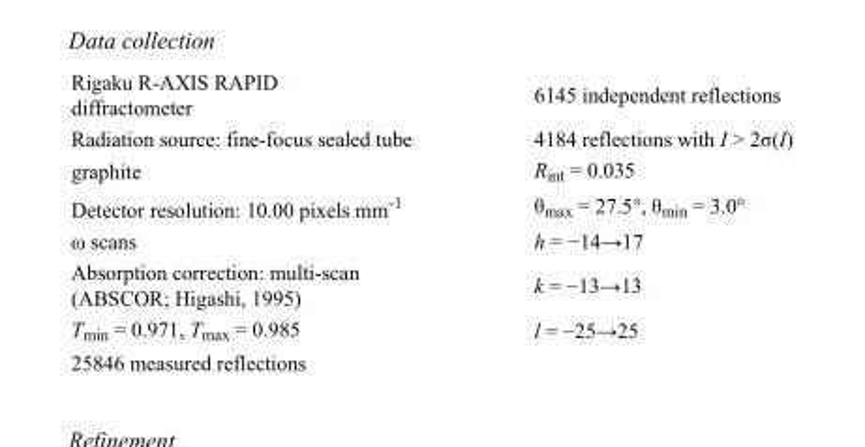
<table><tbody><tr><td>Rigaku R-AXIS RAPID diffractometer</td><td>6145 independent reflections</td></tr><tr><td>Radiation source: fine-focus sealed tube</td><td>4184 reflections with I &gt; 2σ(I)</td></tr><tr><td>graphite</td><td>R<sub>int</sub> = 0.035</td></tr><tr><td>Detector resolution: 10.00 pixels mm<sup>-1</sup></td><td>θ<sub>max</sub> = 27.5°, θ<sub>min</sub> = 3.0°</td></tr><tr><td>ω scans</td><td>h = −14→17</td></tr><tr><td>Absorption correction: multi-scan (ABSCOR; Higashi, 1995)</td><td>k = −13→13</td></tr><tr><td>T<sub>min</sub> = 0.971, T<sub>max</sub> = 0.985</td><td>l = −25→25</td></tr><tr><td>25846 measured reflections</td><td></td></tr></tbody></table>